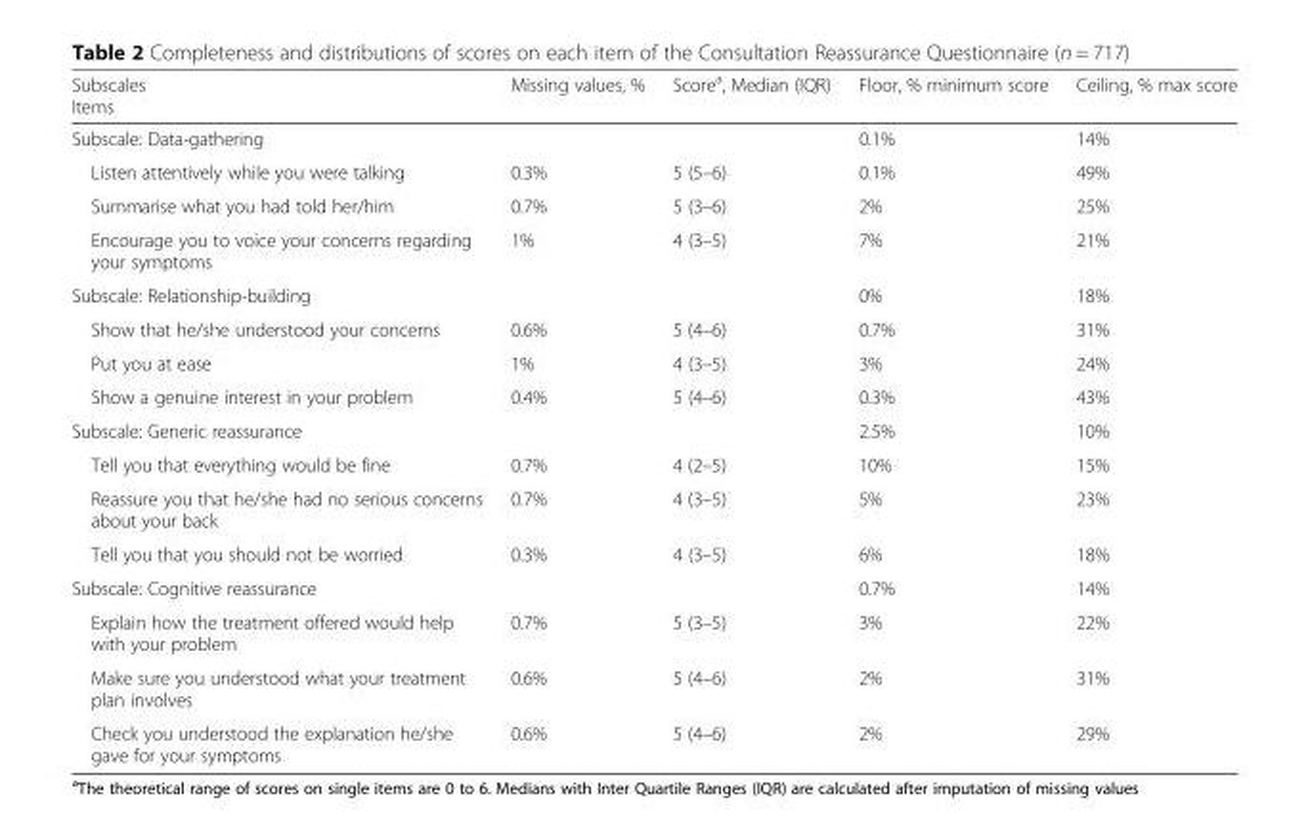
<table><thead><tr><td>Subscales Items</td><td>Missing values, %</td><td>Score<sup>a</sup>, Median (IQR)</td><td>Floor, % minimum score</td><td>Ceiling, % max score</td></tr></thead><tbody><tr><td>Subscale: Data-gathering</td><td></td><td></td><td>0.1%</td><td>14%</td></tr><tr><td>Listen attentively while you were talking</td><td>0.3%</td><td>5 (5–6)</td><td>0.1%</td><td>49%</td></tr><tr><td>Summarise what you had told her/him</td><td>0.7%</td><td>5 (3–6)</td><td>2%</td><td>25%</td></tr><tr><td>Encourage you to voice your concerns regarding your symptoms</td><td>1%</td><td>4 (3–5)</td><td>7%</td><td>21%</td></tr><tr><td>Subscale: Relationship-building</td><td></td><td></td><td>0%</td><td>18%</td></tr><tr><td>Show that he/she understood your concerns</td><td>0.6%</td><td>5 (4–6)</td><td>0.7%</td><td>31%</td></tr><tr><td>Put you at ease</td><td>1%</td><td>4 (3–5)</td><td>3%</td><td>24%</td></tr><tr><td>Show a genuine interest in your problem</td><td>0.4%</td><td>5 (4–6)</td><td>0.3%</td><td>43%</td></tr><tr><td>Subscale: Generic reassurance</td><td></td><td></td><td>2.5%</td><td>10%</td></tr><tr><td>Tell you that everything would be fine</td><td>0.7%</td><td>4 (2–5)</td><td>10%</td><td>15%</td></tr><tr><td>Reassure you that he/she had no serious concerns about your back</td><td>0.7%</td><td>4 (3–5)</td><td>5%</td><td>23%</td></tr><tr><td>Tell you that you should not be worried</td><td>0.3%</td><td>4 (3–5)</td><td>6%</td><td>18%</td></tr><tr><td>Subscale: Cognitive reassurance</td><td></td><td></td><td>0.7%</td><td>14%</td></tr><tr><td>Explain how the treatment offered would help with your problem</td><td>0.7%</td><td>5 (3–5)</td><td>3%</td><td>22%</td></tr><tr><td>Make sure you understood what your treatment plan involves</td><td>0.6%</td><td>5 (4–6)</td><td>2%</td><td>31%</td></tr><tr><td>Check you understood the explanation he/she gave for your symptoms</td><td>0.6%</td><td>5 (4–6)</td><td>2%</td><td>29%</td></tr></tbody></table>